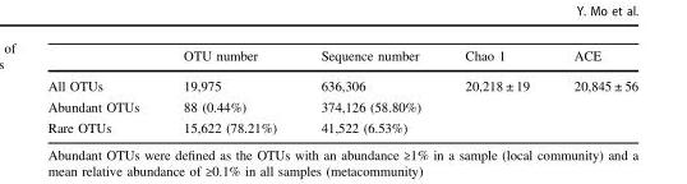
<table><thead><tr><td></td><td>OTU number</td><td>Sequence number</td><td>Chao 1</td><td>ACE</td></tr></thead><tbody><tr><td>All OTUs</td><td>19,975</td><td>636,306</td><td rowspan="3">20,218 ± 19</td><td rowspan="3">20,845 ± 56</td></tr><tr><td>Abundant OTUs</td><td>88 (0.44%)</td><td>374,126 (58.80%)</td></tr><tr><td>Rare OTUs</td><td>15,622 (78.21%)</td><td>41,522 (6.53%)</td></tr></tbody></table>